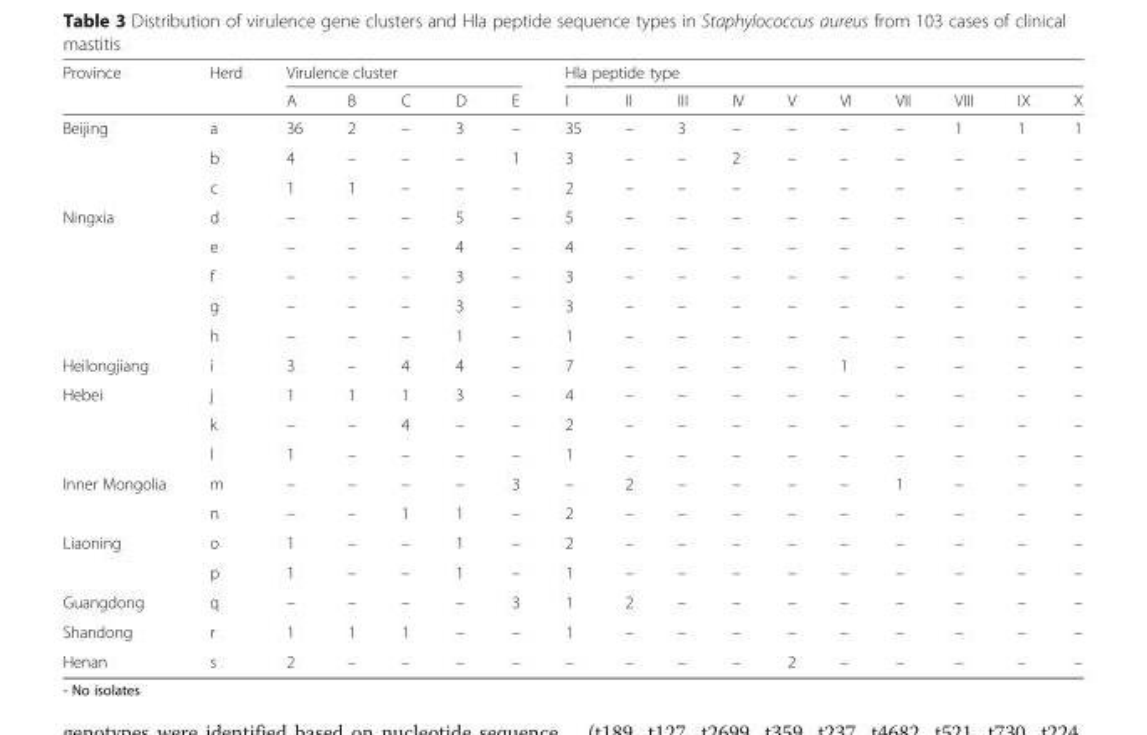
<table><thead><tr><td rowspan="2">Province</td><td rowspan="2">Herd</td><td colspan="5">Virulence cluster</td><td colspan="10">Hla peptide type</td></tr><tr><td>A</td><td>B</td><td>C</td><td>D</td><td>E</td><td>I</td><td>II</td><td>III</td><td>IV</td><td>V</td><td>VI</td><td>VII</td><td>VIII</td><td>IX</td><td>X</td></tr></thead><tbody><tr><td rowspan="3">Beijing</td><td>a</td><td>36</td><td>2</td><td>–</td><td>3</td><td>–</td><td>35</td><td>–</td><td>3</td><td>–</td><td>–</td><td>–</td><td>–</td><td>1</td><td>1</td><td>1</td></tr><tr><td>b</td><td>4</td><td>–</td><td>–</td><td>–</td><td>1</td><td>3</td><td>–</td><td>–</td><td>2</td><td>–</td><td>–</td><td>–</td><td>–</td><td>–</td><td>–</td></tr><tr><td>c</td><td>1</td><td>1</td><td>–</td><td>–</td><td>–</td><td>2</td><td>–</td><td>–</td><td>–</td><td>–</td><td>–</td><td>–</td><td>–</td><td>–</td><td>–</td></tr><tr><td rowspan="5">Ningxia</td><td>d</td><td>–</td><td>–</td><td>–</td><td>5</td><td>–</td><td>5</td><td>–</td><td>–</td><td>–</td><td>–</td><td>–</td><td>–</td><td>–</td><td>–</td><td>–</td></tr><tr><td>e</td><td>–</td><td>–</td><td>–</td><td>4</td><td>–</td><td>4</td><td>–</td><td>–</td><td>–</td><td>–</td><td>–</td><td>–</td><td>–</td><td>–</td><td>–</td></tr><tr><td>f</td><td>–</td><td>–</td><td>–</td><td>3</td><td>–</td><td>3</td><td>–</td><td>–</td><td>–</td><td>–</td><td>–</td><td>–</td><td>–</td><td>–</td><td>–</td></tr><tr><td>g</td><td>–</td><td>–</td><td>–</td><td>3</td><td>–</td><td>3</td><td>–</td><td>–</td><td>–</td><td>–</td><td>–</td><td>–</td><td>–</td><td>–</td><td>–</td></tr><tr><td>h</td><td>–</td><td>–</td><td>–</td><td>1</td><td>–</td><td>1</td><td>–</td><td>–</td><td>–</td><td>–</td><td>–</td><td>–</td><td>–</td><td>–</td><td>–</td></tr><tr><td>Heilongjiang</td><td>i</td><td>3</td><td>–</td><td>4</td><td>4</td><td>–</td><td>7</td><td>–</td><td>–</td><td>–</td><td>–</td><td>1</td><td>–</td><td>–</td><td>–</td><td>–</td></tr><tr><td rowspan="3">Hebei</td><td>j</td><td>1</td><td>1</td><td>1</td><td>3</td><td>–</td><td>4</td><td>–</td><td>–</td><td>–</td><td>–</td><td>–</td><td>–</td><td>–</td><td>–</td><td>–</td></tr><tr><td>k</td><td>–</td><td>–</td><td>4</td><td>–</td><td>–</td><td>2</td><td>–</td><td>–</td><td>–</td><td>–</td><td>–</td><td>–</td><td>–</td><td>–</td><td>–</td></tr><tr><td>l</td><td>1</td><td>–</td><td>–</td><td>–</td><td>–</td><td>1</td><td>–</td><td>–</td><td>–</td><td>–</td><td>–</td><td>–</td><td>–</td><td>–</td><td>–</td></tr><tr><td rowspan="2">Inner Mongolia</td><td>m</td><td>–</td><td>–</td><td>–</td><td>–</td><td>3</td><td>–</td><td>2</td><td>–</td><td>–</td><td>–</td><td>–</td><td>1</td><td>–</td><td>–</td><td>–</td></tr><tr><td>n</td><td>–</td><td>–</td><td>1</td><td>1</td><td>–</td><td>2</td><td>–</td><td>–</td><td>–</td><td>–</td><td>–</td><td>–</td><td>–</td><td>–</td><td>–</td></tr><tr><td rowspan="2">Liaoning</td><td>o</td><td>1</td><td>–</td><td>–</td><td>1</td><td>–</td><td>2</td><td>–</td><td>–</td><td>–</td><td>–</td><td>–</td><td>–</td><td>–</td><td>–</td><td>–</td></tr><tr><td>p</td><td>1</td><td>–</td><td>–</td><td>1</td><td>–</td><td>1</td><td>–</td><td>–</td><td>–</td><td>–</td><td>–</td><td>–</td><td>–</td><td>–</td><td>–</td></tr><tr><td>Guangdong</td><td>q</td><td>–</td><td>–</td><td>–</td><td>–</td><td>3</td><td>1</td><td>2</td><td>–</td><td>–</td><td>–</td><td>–</td><td>–</td><td>–</td><td>–</td><td>–</td></tr><tr><td>Shandong</td><td>r</td><td>1</td><td>1</td><td>1</td><td>–</td><td>–</td><td>1</td><td>–</td><td>–</td><td>–</td><td>–</td><td>–</td><td>–</td><td>–</td><td>–</td><td>–</td></tr><tr><td>Henan</td><td>s</td><td>2</td><td>–</td><td>–</td><td>–</td><td>–</td><td>–</td><td>–</td><td>–</td><td>–</td><td>2</td><td>–</td><td>–</td><td>–</td><td>–</td><td>–</td></tr></tbody></table>